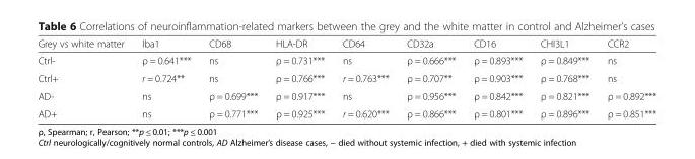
<table><thead><tr><td>Grey vs white matter</td><td>Iba1</td><td>CD68</td><td>HLA-DR</td><td>CD64</td><td>CD32a</td><td>CD16</td><td>CHI3L1</td><td>CCR2</td></tr></thead><tbody><tr><td>Ctrl-</td><td>ρ = 0.641***</td><td>ns</td><td>ρ = 0.731***</td><td>ns</td><td>ρ = 0.666***</td><td>ρ = 0.893***</td><td>ρ = 0.849***</td><td>ns</td></tr><tr><td>Ctrl+</td><td>r = 0.724**</td><td>ns</td><td>ρ = 0.766***</td><td>r = 0.763***</td><td>ρ = 0.707**</td><td>ρ = 0.903***</td><td>ρ = 0.768***</td><td>ns</td></tr><tr><td>AD-</td><td>ns</td><td>ρ = 0.699***</td><td>ρ = 0.917***</td><td>ns</td><td>ρ = 0.956***</td><td>ρ = 0.842***</td><td>ρ = 0.821***</td><td>ρ = 0.892***</td></tr><tr><td>AD+</td><td>ns</td><td>ρ = 0.771***</td><td>ρ = 0.925***</td><td>r = 0.620***</td><td>ρ = 0.866***</td><td>ρ = 0.801***</td><td>ρ = 0.896***</td><td>ρ = 0.851***</td></tr></tbody></table>